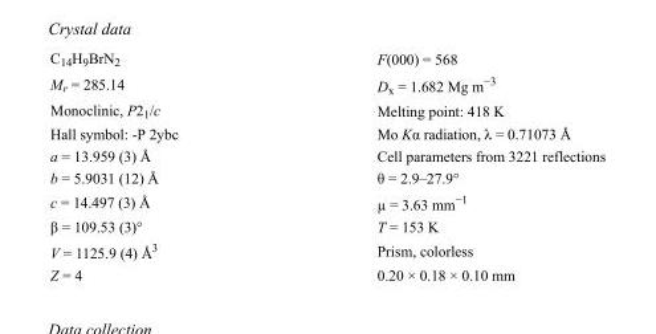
<table><tbody><tr><td>C<sub>14</sub>H<sub>9</sub>BrN<sub>2</sub></td><td>F(000) = 568</td></tr><tr><td>M<sub>r</sub> = 285.14</td><td>D<sub>x</sub> = 1.682 Mg m<sup>−3</sup></td></tr><tr><td>Monoclinic, P2<sub>1</sub>/c</td><td>Melting point: 418 K</td></tr><tr><td>Hall symbol: -P 2ybc</td><td>Mo Kα radiation, λ = 0.71073 Å</td></tr><tr><td>a = 13.959 (3) Å</td><td>Cell parameters from 3221 reflections</td></tr><tr><td>b = 5.9031 (12) Å</td><td>θ = 2.9–27.9°</td></tr><tr><td>c = 14.497 (3) Å</td><td>µ = 3.63 mm<sup>−1</sup></td></tr><tr><td>β = 109.53 (3)°</td><td>T = 153 K</td></tr><tr><td>V = 1125.9 (4) Å<sup>3</sup></td><td>Prism, colorless</td></tr><tr><td>Z = 4</td><td>0.20 × 0.18 × 0.10 mm</td></tr></tbody></table>